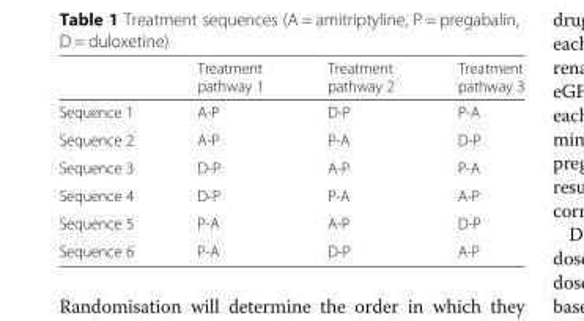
<table><thead><tr><td></td><td>Treatment pathway 1</td><td>Treatment pathway 2</td><td>Treatment pathway 3</td></tr></thead><tbody><tr><td>Sequence 1</td><td>A-P</td><td>D-P</td><td>P-A</td></tr><tr><td>Sequence 2</td><td>A-P</td><td>P-A</td><td>D-P</td></tr><tr><td>Sequence 3</td><td>D-P</td><td>A-P</td><td>P-A</td></tr><tr><td>Sequence 4</td><td>D-P</td><td>P-A</td><td>A-P</td></tr><tr><td>Sequence 5</td><td>P-A</td><td>A-P</td><td>D-P</td></tr><tr><td>Sequence 6</td><td>P-A</td><td>D-P</td><td>A-P</td></tr></tbody></table>